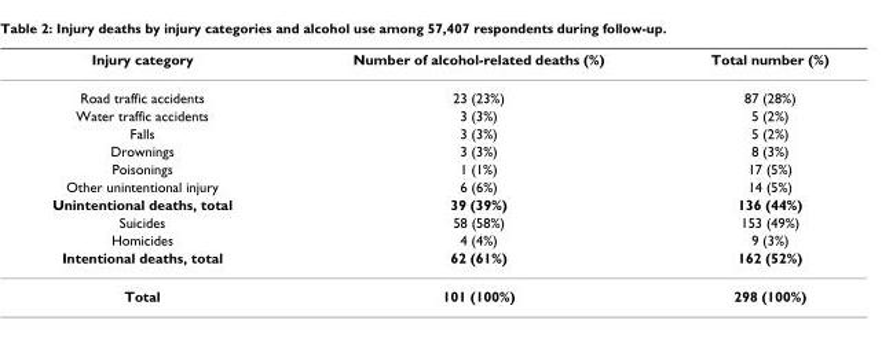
<table><thead><tr><td>Injury category</td><td>Number of alcohol-related deaths (%)</td><td>Total number (%)</td></tr></thead><tbody><tr><td>Road traffic accidents</td><td>23 (23%)</td><td>87 (28%)</td></tr><tr><td>Water traffic accidents</td><td>3 (3%)</td><td>5 (2%)</td></tr><tr><td>Falls</td><td>3 (3%)</td><td>5 (2%)</td></tr><tr><td>Drownings</td><td>3 (3%)</td><td>8 (3%)</td></tr><tr><td>Poisonings</td><td>1 (1%)</td><td>17 (5%)</td></tr><tr><td>Other unintentional injury</td><td>6 (6%)</td><td>14 (5%)</td></tr><tr><td>Unintentional deaths, total</td><td>39 (39%)</td><td>136 (44%)</td></tr><tr><td>Suicides</td><td>58 (58%)</td><td>153 (49%)</td></tr><tr><td>Homicides</td><td>4 (4%)</td><td>9 (3%)</td></tr><tr><td>Intentional deaths, total</td><td>62 (61%)</td><td>162 (52%)</td></tr><tr><td>Total</td><td>101 (100%)</td><td>298 (100%)</td></tr></tbody></table>